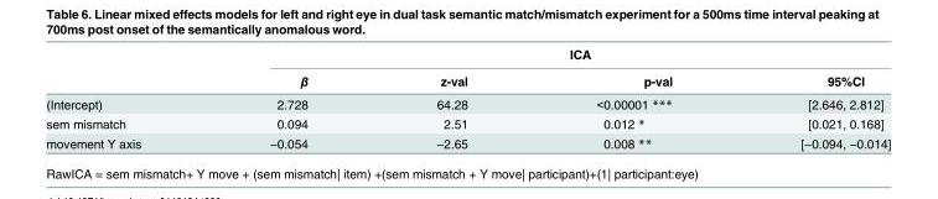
<table><thead><tr><td rowspan="2"></td><td colspan="4">ICA</td></tr><tr><td>β</td><td>z-val</td><td>p-val</td><td>95%CI</td></tr></thead><tbody><tr><td>(Intercept)</td><td>2.728</td><td>64.28</td><td>&lt;0.00001 ***</td><td>[2.646, 2.812]</td></tr><tr><td>sem mismatch</td><td>0.094</td><td>2.51</td><td>0.012 *</td><td>[0.021, 0.168]</td></tr><tr><td>movement Y axis</td><td>−0.054</td><td>−2.65</td><td>0.008 **</td><td>[−0.094, −0.014]</td></tr></tbody></table>